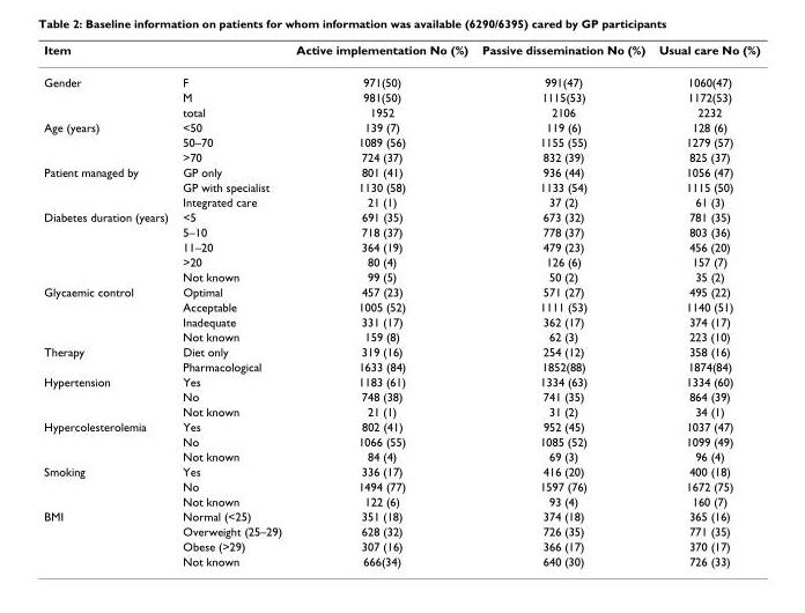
<table><thead><tr><td>Item</td><td></td><td>Active implementation No (%)</td><td>Passive dissemination No (%)</td><td>Usual care No (%)</td></tr></thead><tbody><tr><td rowspan="3">Gender</td><td>F</td><td>971(50)</td><td>991(47)</td><td>1060(47)</td></tr><tr><td>M</td><td>981(50)</td><td>1115(53)</td><td>1172(53)</td></tr><tr><td>total</td><td>1952</td><td>2106</td><td>2232</td></tr><tr><td rowspan="3">Age (years)</td><td>&lt;50</td><td>139 (7)</td><td>119 (6)</td><td>128 (6)</td></tr><tr><td>50–70</td><td>1089 (56)</td><td>1155 (55)</td><td>1279 (57)</td></tr><tr><td>&gt;70</td><td>724 (37)</td><td>832 (39)</td><td>825 (37)</td></tr><tr><td rowspan="3">Patient managed by</td><td>GP only</td><td>801 (41)</td><td>936 (44)</td><td>1056 (47)</td></tr><tr><td>GP with specialist</td><td>1130 (58)</td><td>1133 (54)</td><td>1115 (50)</td></tr><tr><td>Integrated care</td><td>21 (1)</td><td>37 (2)</td><td>61 (3)</td></tr><tr><td rowspan="5">Diabetes duration (years)</td><td>&lt;5</td><td>691 (35)</td><td>673 (32)</td><td>781 (35)</td></tr><tr><td>5–10</td><td>718 (37)</td><td>778 (37)</td><td>803 (36)</td></tr><tr><td>11–20</td><td>364 (19)</td><td>479 (23)</td><td>456 (20)</td></tr><tr><td>&gt;20</td><td>80 (4)</td><td>126 (6)</td><td>157 (7)</td></tr><tr><td>Not known</td><td>99 (5)</td><td>50 (2)</td><td>35 (2)</td></tr><tr><td rowspan="4">Glycaemic control</td><td>Optimal</td><td>457 (23)</td><td>571 (27)</td><td>495 (22)</td></tr><tr><td>Acceptable</td><td>1005 (52)</td><td>1111 (53)</td><td>1140 (51)</td></tr><tr><td>Inadequate</td><td>331 (17)</td><td>362 (17)</td><td>374 (17)</td></tr><tr><td>Not known</td><td>159 (8)</td><td>62 (3)</td><td>223 (10)</td></tr><tr><td rowspan="2">Therapy</td><td>Diet only</td><td>319 (16)</td><td>254 (12)</td><td>358 (16)</td></tr><tr><td>Pharmacological</td><td>1633 (84)</td><td>1852(88)</td><td>1874(84)</td></tr><tr><td rowspan="3">Hypertension</td><td>Yes</td><td>1183 (61)</td><td>1334 (63)</td><td>1334 (60)</td></tr><tr><td>No</td><td>748 (38)</td><td>741 (35)</td><td>864 (39)</td></tr><tr><td>Not known</td><td>21 (1)</td><td>31 (2)</td><td>34 (1)</td></tr><tr><td rowspan="3">Hypercolesterolemia</td><td>Yes</td><td>802 (41)</td><td>952 (45)</td><td>1037 (47)</td></tr><tr><td>No</td><td>1066 (55)</td><td>1085 (52)</td><td>1099 (49)</td></tr><tr><td>Not known</td><td>84 (4)</td><td>69 (3)</td><td>96 (4)</td></tr><tr><td rowspan="3">Smoking</td><td>Yes</td><td>336 (17)</td><td>416 (20)</td><td>400 (18)</td></tr><tr><td>No</td><td>1494 (77)</td><td>1597 (76)</td><td>1672 (75)</td></tr><tr><td>Not known</td><td>122 (6)</td><td>93 (4)</td><td>160 (7)</td></tr><tr><td rowspan="4">BMI</td><td>Normal (&lt;25)</td><td>351 (18)</td><td>374 (18)</td><td>365 (16)</td></tr><tr><td>Overweight (25–29)</td><td>628 (32)</td><td>726 (35)</td><td>771 (35)</td></tr><tr><td>Obese (&gt;29)</td><td>307 (16)</td><td>366 (17)</td><td>370 (17)</td></tr><tr><td>Not known</td><td>666(34)</td><td>640 (30)</td><td>726 (33)</td></tr></tbody></table>